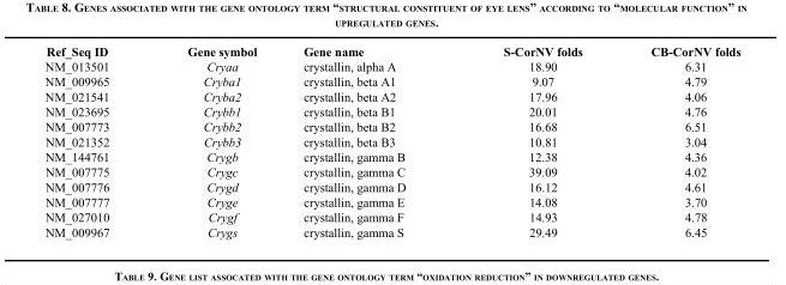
<table><thead><tr><td>Ref_Seq ID</td><td>Gene symbol</td><td>Gene name</td><td>S-CorNV folds</td><td>CB-CorNV folds</td></tr></thead><tbody><tr><td>NM_013501</td><td>Cryaa</td><td>crystallin, alpha A</td><td>18.90</td><td>6.31</td></tr><tr><td>NM_009965</td><td>Cryba1</td><td>crystallin, beta A1</td><td>9.07</td><td>4.79</td></tr><tr><td>NM_021541</td><td>Cryba2</td><td>crystallin, beta A2</td><td>17.96</td><td>4.06</td></tr><tr><td>NM_023695</td><td>Crybb1</td><td>crystallin, beta B1</td><td>20.01</td><td>4.76</td></tr><tr><td>NM_007773</td><td>Crybb2</td><td>crystallin, beta B2</td><td>16.68</td><td>6.51</td></tr><tr><td>NM_021352</td><td>Crybb3</td><td>crystallin, beta B3</td><td>10.81</td><td>3.04</td></tr><tr><td>NM_144761</td><td>Crygb</td><td>crystallin, gamma B</td><td>12.38</td><td>4.36</td></tr><tr><td>NM_007775</td><td>Crygc</td><td>crystallin, gamma C</td><td>39.09</td><td>4.02</td></tr><tr><td>NM_007776</td><td>Crygd</td><td>crystallin, gamma D</td><td>16.12</td><td>4.61</td></tr><tr><td>NM_007777</td><td>Cryge</td><td>crystallin, gamma E</td><td>14.08</td><td>3.70</td></tr><tr><td>NM_027010</td><td>Crygf</td><td>crystallin, gamma F</td><td>14.93</td><td>4.78</td></tr><tr><td>NM_009967</td><td>Crygs</td><td>crystallin, gamma S</td><td>29.49</td><td>6.45</td></tr></tbody></table>